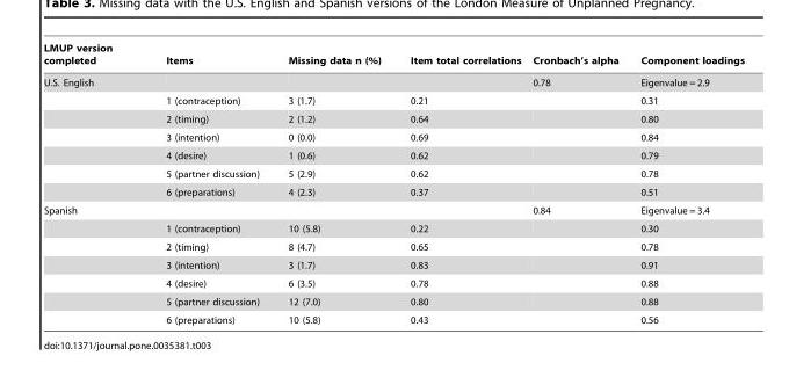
<table><thead><tr><td>LMUP version completed</td><td>Items</td><td>Missing data n (%)</td><td>Item total correlations</td><td>Cronbach’s alpha</td><td>Component loadings</td></tr></thead><tbody><tr><td rowspan="7">U.S. English</td><td></td><td></td><td></td><td>0.78</td><td>Eigenvalue = 2.9</td></tr><tr><td>1 (contraception)</td><td>3 (1.7)</td><td>0.21</td><td></td><td>0.31</td></tr><tr><td>2 (timing)</td><td>2 (1.2)</td><td>0.64</td><td></td><td>0.80</td></tr><tr><td>3 (intention)</td><td>0 (0.0)</td><td>0.69</td><td></td><td>0.84</td></tr><tr><td>4 (desire)</td><td>1 (0.6)</td><td>0.62</td><td></td><td>0.79</td></tr><tr><td>5 (partner discussion)</td><td>5 (2.9)</td><td>0.62</td><td></td><td>0.78</td></tr><tr><td>6 (preparations)</td><td>4 (2.3)</td><td>0.37</td><td></td><td>0.51</td></tr><tr><td rowspan="7">Spanish</td><td></td><td></td><td></td><td>0.84</td><td>Eigenvalue = 3.4</td></tr><tr><td>1 (contraception)</td><td>10 (5.8)</td><td>0.22</td><td></td><td>0.30</td></tr><tr><td>2 (timing)</td><td>8 (4.7)</td><td>0.65</td><td></td><td>0.78</td></tr><tr><td>3 (intention)</td><td>3 (1.7)</td><td>0.83</td><td></td><td>0.91</td></tr><tr><td>4 (desire)</td><td>6 (3.5)</td><td>0.78</td><td></td><td>0.88</td></tr><tr><td>5 (partner discussion)</td><td>12 (7.0)</td><td>0.80</td><td></td><td>0.88</td></tr><tr><td>6 (preparations)</td><td>10 (5.8)</td><td>0.43</td><td></td><td>0.56</td></tr></tbody></table>